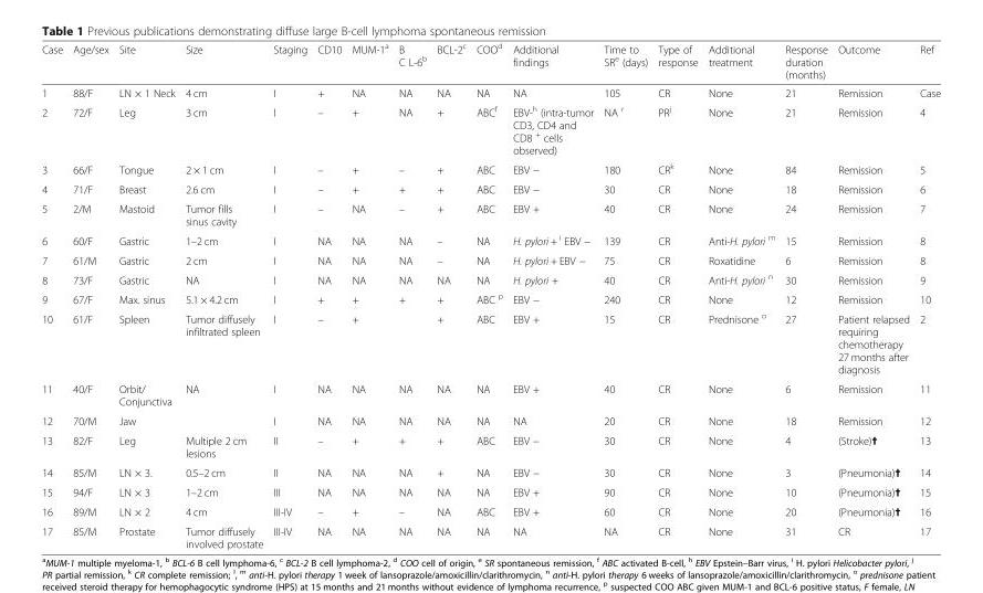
<table><thead><tr><td>Case</td><td>Age/sex</td><td>Site</td><td>Size</td><td>Staging</td><td>CD10</td><td>MUM-1<sup>a</sup></td><td>B C L-6<sup>b</sup></td><td>BCL-2<sup>c</sup></td><td>COO<sup>d</sup></td><td>Additional findings</td><td>Time to SR<sup>e</sup> (days)</td><td>Type of response</td><td>Additional treatment</td><td>Response duration (months)</td><td>Outcome</td><td>Ref</td></tr></thead><tbody><tr><td>1</td><td>88/F</td><td>LN × 1 Neck</td><td>4 cm</td><td>I</td><td>+</td><td>NA</td><td>NA</td><td>NA</td><td>NA</td><td>NA</td><td>105</td><td>CR</td><td>None</td><td>21</td><td>Remission</td><td>Case</td></tr><tr><td>2</td><td>72/F</td><td>Leg</td><td>3 cm</td><td>I</td><td>–</td><td>+</td><td>NA</td><td>+</td><td>ABC<sup>f</sup></td><td>EBV-<sup>h</sup> (intra-tumor CD3, CD4 and CD8 <sup>+</sup> cells observed)</td><td>NA <sup>r</sup></td><td>PR<sup>j</sup></td><td>None</td><td>21</td><td>Remission</td><td>4</td></tr><tr><td>3</td><td>66/F</td><td>Tongue</td><td>2 × 1 cm</td><td>I</td><td>–</td><td>+</td><td>–</td><td>+</td><td>ABC</td><td>EBV −</td><td>180</td><td>CR<sup>k</sup></td><td>None</td><td>84</td><td>Remission</td><td>5</td></tr><tr><td>4</td><td>71/F</td><td>Breast</td><td>2.6 cm</td><td>I</td><td>–</td><td>+</td><td>+</td><td>+</td><td>ABC</td><td>EBV −</td><td>30</td><td>CR</td><td>None</td><td>18</td><td>Remission</td><td>6</td></tr><tr><td>5</td><td>2/M</td><td>Mastoid</td><td>Tumor fills sinus cavity</td><td>I</td><td>–</td><td>NA</td><td>–</td><td>+</td><td>ABC</td><td>EBV +</td><td>40</td><td>CR</td><td>None</td><td>24</td><td>Remission</td><td>7</td></tr><tr><td>6</td><td>60/F</td><td>Gastric</td><td>1–2 cm</td><td>I</td><td>NA</td><td>NA</td><td>NA</td><td>–</td><td>NA</td><td>H. pylori + <sup>i</sup> EBV −</td><td>139</td><td>CR</td><td>Anti-H. pylori <sup>m</sup></td><td>15</td><td>Remission</td><td>8</td></tr><tr><td>7</td><td>61/M</td><td>Gastric</td><td>2 cm</td><td>I</td><td>NA</td><td>NA</td><td>NA</td><td>–</td><td>NA</td><td>H. pylori + EBV −</td><td>75</td><td>CR</td><td>Roxatidine</td><td>6</td><td>Remission</td><td>8</td></tr><tr><td>8</td><td>73/F</td><td>Gastric</td><td>NA</td><td>I</td><td>NA</td><td>NA</td><td>NA</td><td>NA</td><td>NA</td><td>H. pylori +</td><td>40</td><td>CR</td><td>Anti-H. pylori <sup>n</sup></td><td>30</td><td>Remission</td><td>9</td></tr><tr><td>9</td><td>67/F</td><td>Max. sinus</td><td>5.1 × 4.2 cm</td><td>I</td><td>+</td><td>+</td><td>+</td><td>+</td><td>ABC <sup>p</sup></td><td>EBV −</td><td>240</td><td>CR</td><td>None</td><td>12</td><td>Remission</td><td>10</td></tr><tr><td>10</td><td>61/F</td><td>Spleen</td><td>Tumor diffusely infiltrated spleen</td><td>I</td><td>–</td><td>+</td><td></td><td>+</td><td>ABC</td><td>EBV +</td><td>15</td><td>CR</td><td>Prednisone <sup>o</sup></td><td>27</td><td>Patient relapsed requiring chemotherapy 27 months after diagnosis</td><td>2</td></tr><tr><td>11</td><td>40/F</td><td>Orbit/ Conjunctiva</td><td>NA</td><td>I</td><td>NA</td><td>NA</td><td>NA</td><td>NA</td><td>NA</td><td>EBV +</td><td>40</td><td>CR</td><td>None</td><td>6</td><td>Remission</td><td>11</td></tr><tr><td>12</td><td>70/M</td><td>Jaw</td><td></td><td>I</td><td>NA</td><td>NA</td><td>NA</td><td>NA</td><td>NA</td><td>NA</td><td>20</td><td>CR</td><td>None</td><td>18</td><td>Remission</td><td>12</td></tr><tr><td>13</td><td>82/F</td><td>Leg</td><td>Multiple 2 cm lesions</td><td>II</td><td>–</td><td>+</td><td>+</td><td>+</td><td>ABC</td><td>EBV −</td><td>30</td><td>CR</td><td>None</td><td>4</td><td>(Stroke)✝</td><td>13</td></tr><tr><td>14</td><td>85/M</td><td>LN × 3.</td><td>0.5–2 cm</td><td>II</td><td>NA</td><td>NA</td><td>NA</td><td>+</td><td>NA</td><td>EBV −</td><td>30</td><td>CR</td><td>None</td><td>3</td><td>(Pneumonia)✝</td><td>14</td></tr><tr><td>15</td><td>94/F</td><td>LN × 3</td><td>1–2 cm</td><td>III</td><td>NA</td><td>NA</td><td>NA</td><td>NA</td><td>NA</td><td>EBV +</td><td>90</td><td>CR</td><td>None</td><td>10</td><td>(Pneumonia)✝</td><td>15</td></tr><tr><td>16</td><td>89/M</td><td>LN × 2</td><td>4 cm</td><td>III-IV</td><td>–</td><td>+</td><td>–</td><td>NA</td><td>ABC</td><td>EBV +</td><td>60</td><td>CR</td><td>None</td><td>20</td><td>(Pneumonia)✝</td><td>16</td></tr><tr><td>17</td><td>85/M</td><td>Prostate</td><td>Tumor diffusely involved prostate</td><td>III-IV</td><td>NA</td><td>NA</td><td>NA</td><td>NA</td><td>NA</td><td>NA</td><td>NA</td><td>CR</td><td>None</td><td>31</td><td>CR</td><td>17</td></tr></tbody></table>